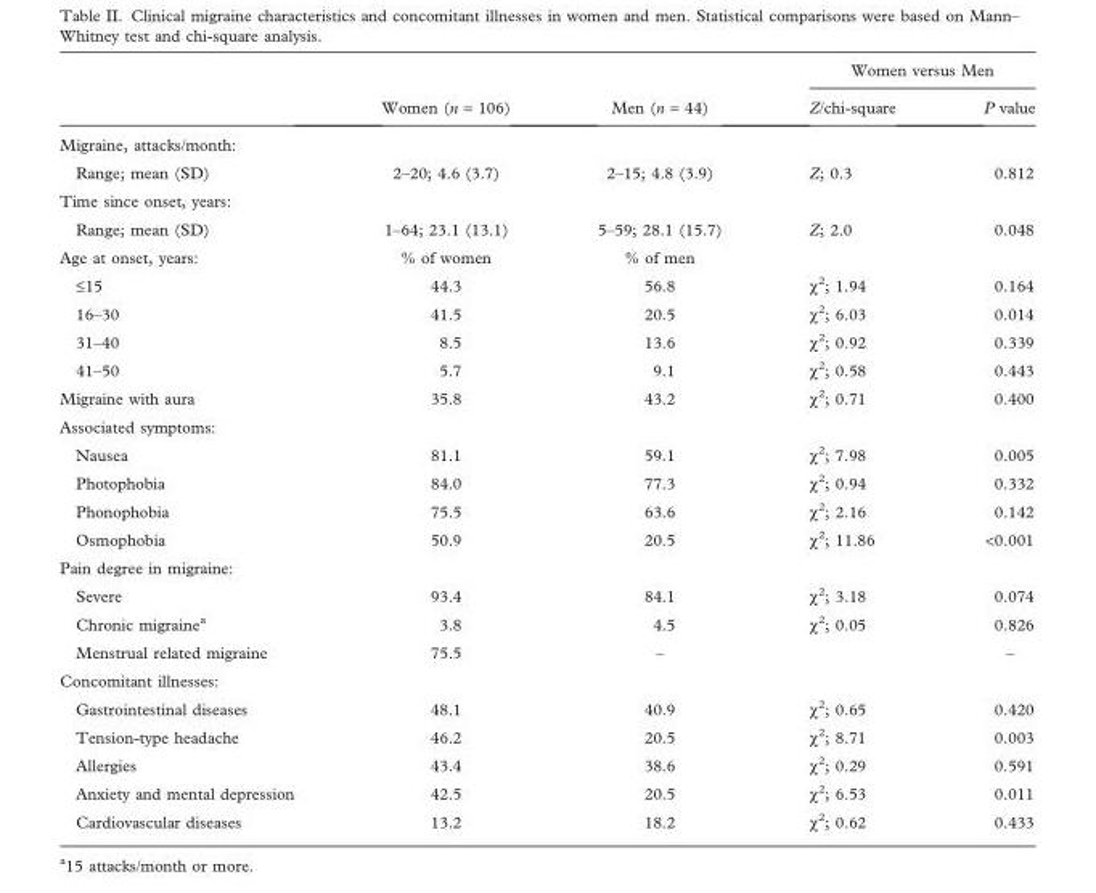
<table><thead><tr><td rowspan="2"></td><td rowspan="2">Women (n = 106)</td><td rowspan="2">Men (n = 44)</td><td colspan="2">Women versus Men</td></tr><tr><td>Z/chi-square</td><td>P value</td></tr></thead><tbody><tr><td colspan="5">Migraine, attacks/month:</td></tr><tr><td>Range; mean (SD)</td><td>2–20; 4.6 (3.7)</td><td>2–15; 4.8 (3.9)</td><td>Z; 0.3</td><td>0.812</td></tr><tr><td colspan="5">Time since onset, years:</td></tr><tr><td>Range; mean (SD)</td><td>1–64; 23.1 (13.1)</td><td>5–59; 28.1 (15.7)</td><td>Z; 2.0</td><td>0.048</td></tr><tr><td>Age at onset, years:</td><td>% of women</td><td>% of men</td><td></td><td></td></tr><tr><td>≤15</td><td>44.3</td><td>56.8</td><td>χ<sup>2</sup>; 1.94</td><td>0.164</td></tr><tr><td>16–30</td><td>41.5</td><td>20.5</td><td>χ<sup>2</sup>; 6.03</td><td>0.014</td></tr><tr><td>31–40</td><td>8.5</td><td>13.6</td><td>χ<sup>2</sup>; 0.92</td><td>0.339</td></tr><tr><td>41–50</td><td>5.7</td><td>9.1</td><td>χ<sup>2</sup>; 0.58</td><td>0.443</td></tr><tr><td>Migraine with aura</td><td>35.8</td><td>43.2</td><td>χ<sup>2</sup>; 0.71</td><td>0.400</td></tr><tr><td colspan="5">Associated symptoms:</td></tr><tr><td>Nausea</td><td>81.1</td><td>59.1</td><td>χ<sup>2</sup>; 7.98</td><td>0.005</td></tr><tr><td>Photophobia</td><td>84.0</td><td>77.3</td><td>χ<sup>2</sup>; 0.94</td><td>0.332</td></tr><tr><td>Phonophobia</td><td>75.5</td><td>63.6</td><td>χ<sup>2</sup>; 2.16</td><td>0.142</td></tr><tr><td>Osmophobia</td><td>50.9</td><td>20.5</td><td>χ<sup>2</sup>; 11.86</td><td>&lt;0.001</td></tr><tr><td colspan="5">Pain degree in migraine:</td></tr><tr><td>Severe</td><td>93.4</td><td>84.1</td><td>χ<sup>2</sup>; 3.18</td><td>0.074</td></tr><tr><td>Chronic migraine<sup>a</sup></td><td>3.8</td><td>4.5</td><td>χ<sup>2</sup>; 0.05</td><td>0.826</td></tr><tr><td>Menstrual related migraine</td><td>75.5</td><td>–</td><td></td><td>–</td></tr><tr><td colspan="5">Concomitant illnesses:</td></tr><tr><td>Gastrointestinal diseases</td><td>48.1</td><td>40.9</td><td>χ<sup>2</sup>; 0.65</td><td>0.420</td></tr><tr><td>Tension-type headache</td><td>46.2</td><td>20.5</td><td>χ<sup>2</sup>; 8.71</td><td>0.003</td></tr><tr><td>Allergies</td><td>43.4</td><td>38.6</td><td>χ<sup>2</sup>; 0.29</td><td>0.591</td></tr><tr><td>Anxiety and mental depression</td><td>42.5</td><td>20.5</td><td>χ<sup>2</sup>; 6.53</td><td>0.011</td></tr><tr><td>Cardiovascular diseases</td><td>13.2</td><td>18.2</td><td>χ<sup>2</sup>; 0.62</td><td>0.433</td></tr></tbody></table>